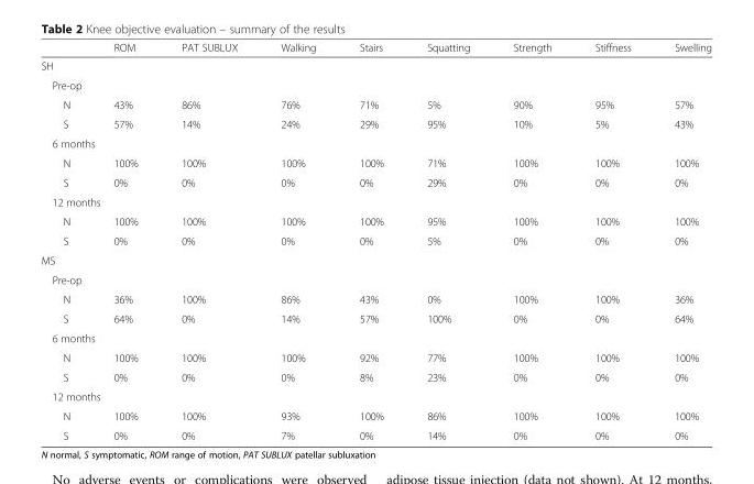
<table><thead><tr><td></td><td>ROM</td><td>PAT SUBLUX</td><td>Walking</td><td>Stairs</td><td>Squatting</td><td>Strength</td><td>Stiffness</td><td>Swelling</td></tr></thead><tbody><tr><td colspan="9">SH</td></tr><tr><td colspan="9">Pre-op</td></tr><tr><td>N</td><td>43%</td><td>86%</td><td>76%</td><td>71%</td><td>5%</td><td>90%</td><td>95%</td><td>57%</td></tr><tr><td>S</td><td>57%</td><td>14%</td><td>24%</td><td>29%</td><td>95%</td><td>10%</td><td>5%</td><td>43%</td></tr><tr><td colspan="9">6 months</td></tr><tr><td>N</td><td>100%</td><td>100%</td><td>100%</td><td>100%</td><td>71%</td><td>100%</td><td>100%</td><td>100%</td></tr><tr><td>S</td><td>0%</td><td>0%</td><td>0%</td><td>0%</td><td>29%</td><td>0%</td><td>0%</td><td>0%</td></tr><tr><td colspan="9">12 months</td></tr><tr><td>N</td><td>100%</td><td>100%</td><td>100%</td><td>100%</td><td>95%</td><td>100%</td><td>100%</td><td>100%</td></tr><tr><td>S</td><td>0%</td><td>0%</td><td>0%</td><td>0%</td><td>5%</td><td>0%</td><td>0%</td><td>0%</td></tr><tr><td colspan="9">MS</td></tr><tr><td colspan="9">Pre-op</td></tr><tr><td>N</td><td>36%</td><td>100%</td><td>86%</td><td>43%</td><td>0%</td><td>100%</td><td>100%</td><td>36%</td></tr><tr><td>S</td><td>64%</td><td>0%</td><td>14%</td><td>57%</td><td>100%</td><td>0%</td><td>0%</td><td>64%</td></tr><tr><td colspan="9">6 months</td></tr><tr><td>N</td><td>100%</td><td>100%</td><td>100%</td><td>92%</td><td>77%</td><td>100%</td><td>100%</td><td>100%</td></tr><tr><td>S</td><td>0%</td><td>0%</td><td>0%</td><td>8%</td><td>23%</td><td>0%</td><td>0%</td><td>0%</td></tr><tr><td colspan="9">12 months</td></tr><tr><td>N</td><td>100%</td><td>100%</td><td>93%</td><td>100%</td><td>86%</td><td>100%</td><td>100%</td><td>100%</td></tr><tr><td>S</td><td>0%</td><td>0%</td><td>7%</td><td>0%</td><td>14%</td><td>0%</td><td>0%</td><td>0%</td></tr></tbody></table>